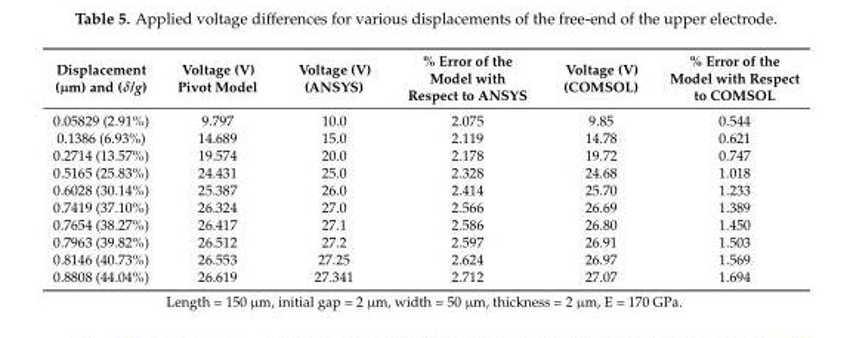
<table><thead><tr><td>Displacement (µm) and (δ/g)</td><td>Voltage (V) Pivot Model</td><td>Voltage (V) (ANSYS)</td><td>% Error of the Model with Respect to ANSYS</td><td>Voltage (V) (COMSOL)</td><td>% Error of the Model with Respect to COMSOL</td></tr></thead><tbody><tr><td>0.05829 (2.91%)</td><td>9.797</td><td>10.0</td><td>2.075</td><td>9.85</td><td>0.544</td></tr><tr><td>0.1386 (6.93%)</td><td>14.689</td><td>15.0</td><td>2.119</td><td>14.78</td><td>0.621</td></tr><tr><td>0.2714 (13.57%)</td><td>19.574</td><td>20.0</td><td>2.178</td><td>19.72</td><td>0.747</td></tr><tr><td>0.5165 (25.83%)</td><td>24.431</td><td>25.0</td><td>2.328</td><td>24.68</td><td>1.018</td></tr><tr><td>0.6028 (30.14%)</td><td>25.387</td><td>26.0</td><td>2.414</td><td>25.70</td><td>1.233</td></tr><tr><td>0.7419 (37.10%)</td><td>26.324</td><td>27.0</td><td>2.566</td><td>26.69</td><td>1.389</td></tr><tr><td>0.7654 (38.27%)</td><td>26.417</td><td>27.1</td><td>2.586</td><td>26.80</td><td>1.450</td></tr><tr><td>0.7963 (39.82%)</td><td>26.512</td><td>27.2</td><td>2.597</td><td>26.91</td><td>1.503</td></tr><tr><td>0.8146 (40.73%)</td><td>26.553</td><td>27.25</td><td>2.624</td><td>26.97</td><td>1.569</td></tr><tr><td>0.8808 (44.04%)</td><td>26.619</td><td>27.341</td><td>2.712</td><td>27.07</td><td>1.694</td></tr></tbody></table>